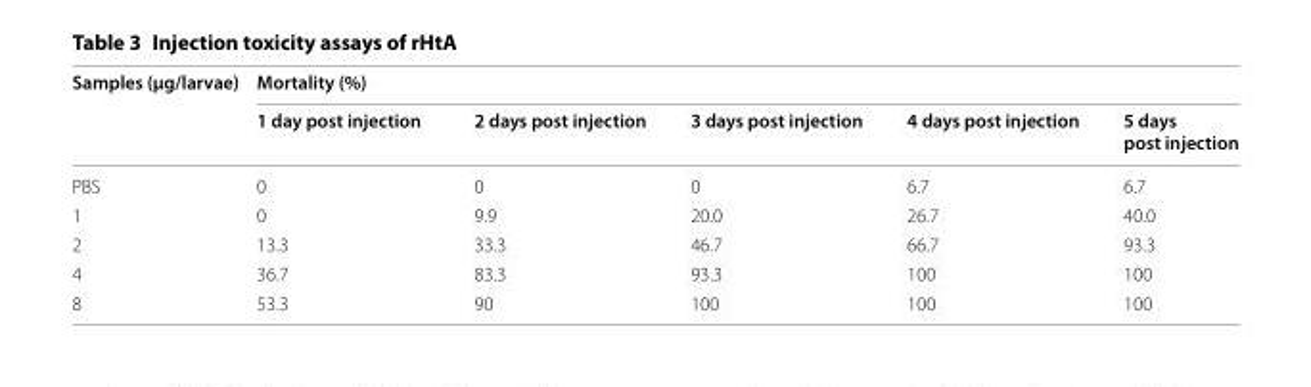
<table><thead><tr><td rowspan="2">Samples (μg/larvae)</td><td colspan="5">Mortality (%)</td></tr><tr><td>1 day post injection</td><td>2 days post injection</td><td>3 days post injection</td><td>4 days post injection</td><td>5 days post injection</td></tr></thead><tbody><tr><td>PBS</td><td>0</td><td>0</td><td>0</td><td>6.7</td><td>6.7</td></tr><tr><td>1</td><td>0</td><td>9.9</td><td>20.0</td><td>26.7</td><td>40.0</td></tr><tr><td>2</td><td>13.3</td><td>33.3</td><td>46.7</td><td>66.7</td><td>93.3</td></tr><tr><td>4</td><td>36.7</td><td>83.3</td><td>93.3</td><td>100</td><td>100</td></tr><tr><td>8</td><td>53.3</td><td>90</td><td>100</td><td>100</td><td>100</td></tr></tbody></table>